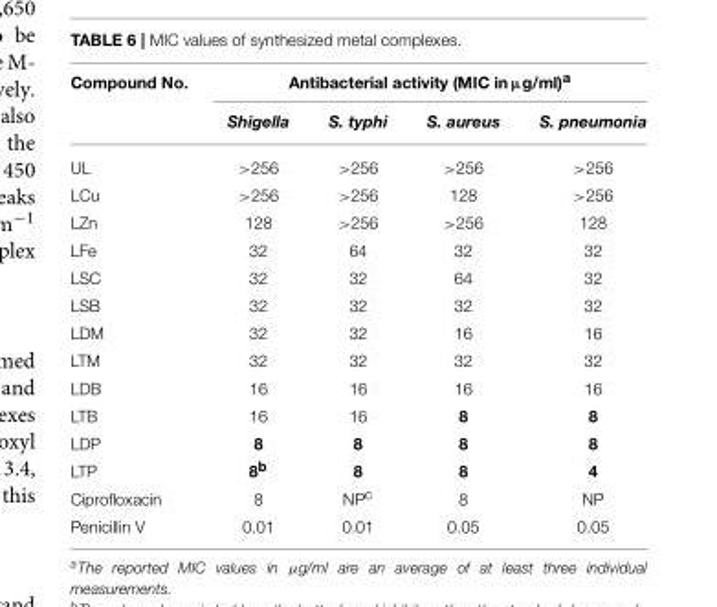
<table><thead><tr><td rowspan="2">Compound No.</td><td colspan="4">Antibacterial activity (MIC in µg/ml)<sup>a</sup></td></tr><tr><td>Shigella</td><td>S. typhi</td><td>S. aureus</td><td>S. pneumonia</td></tr></thead><tbody><tr><td>UL</td><td>&gt;256</td><td>&gt;256</td><td>&gt;256</td><td>&gt;256</td></tr><tr><td>LCu</td><td>&gt;256</td><td>&gt;256</td><td>128</td><td>&gt;256</td></tr><tr><td>LZn</td><td>128</td><td>&gt;256</td><td>&gt;256</td><td>128</td></tr><tr><td>LFe</td><td>32</td><td>64</td><td>32</td><td>32</td></tr><tr><td>LSC</td><td>32</td><td>32</td><td>64</td><td>32</td></tr><tr><td>LSB</td><td>32</td><td>32</td><td>32</td><td>32</td></tr><tr><td>LDM</td><td>32</td><td>32</td><td>16</td><td>16</td></tr><tr><td>LTM</td><td>32</td><td>32</td><td>32</td><td>32</td></tr><tr><td>LDB</td><td>16</td><td>16</td><td>16</td><td>16</td></tr><tr><td>LTB</td><td>16</td><td>16</td><td>8</td><td>8</td></tr><tr><td>LDP</td><td>8</td><td>8</td><td>8</td><td>8</td></tr><tr><td>LTP</td><td>8<sup>b</sup></td><td>8</td><td>8</td><td>4</td></tr><tr><td>Ciprofloxacin</td><td>8</td><td>NP<sup>c</sup></td><td>8</td><td>NP</td></tr><tr><td>Penicillin V</td><td>0.01</td><td>0.01</td><td>0.05</td><td>0.05</td></tr></tbody></table>